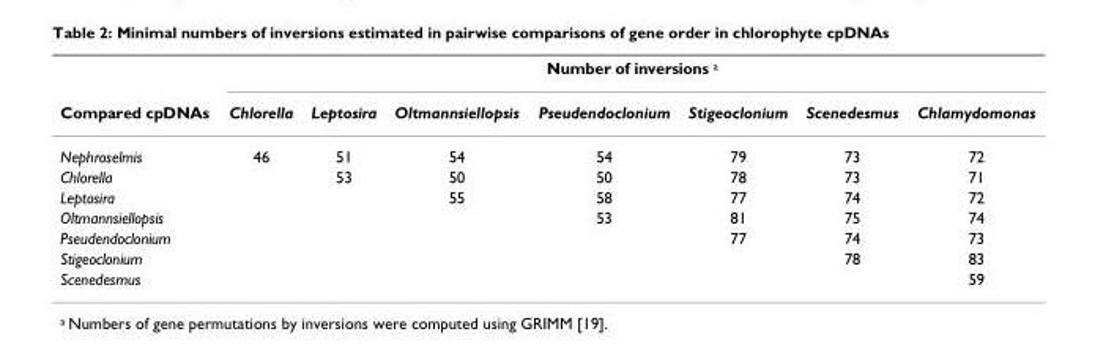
<table><thead><tr><td rowspan="2">Compared cpDNAs</td><td colspan="7">Number of inversions <sup>a</sup></td></tr><tr><td>Chlorella</td><td>Leptosira</td><td>Oltmannsiellopsis</td><td>Pseudendoclonium</td><td>Stigeoclonium</td><td>Scenedesmus</td><td>Chlamydomonas</td></tr></thead><tbody><tr><td>Nephroselmis</td><td>46</td><td>51</td><td>54</td><td>54</td><td>79</td><td>73</td><td>72</td></tr><tr><td>Chlorella</td><td></td><td>53</td><td>50</td><td>50</td><td>78</td><td>73</td><td>71</td></tr><tr><td>Leptosira</td><td></td><td></td><td>55</td><td>58</td><td>77</td><td>74</td><td>72</td></tr><tr><td>Oltmannsiellopsis</td><td></td><td></td><td></td><td>53</td><td>81</td><td>75</td><td>74</td></tr><tr><td>Pseudendoclonium</td><td></td><td></td><td></td><td></td><td>77</td><td>74</td><td>73</td></tr><tr><td>Stigeoclonium</td><td></td><td></td><td></td><td></td><td></td><td>78</td><td>83</td></tr><tr><td>Scenedesmus</td><td></td><td></td><td></td><td></td><td></td><td></td><td>59</td></tr></tbody></table>